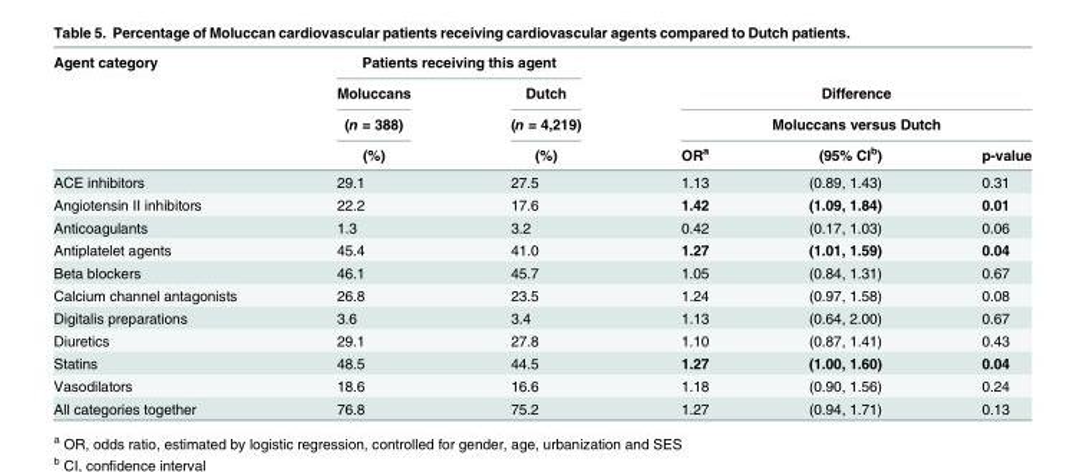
<table><thead><tr><td rowspan="4">Agent category</td><td colspan="2">Patients receiving this agent</td><td></td><td></td><td></td></tr><tr><td rowspan="3">Moluccans (n = 388) (%)</td><td rowspan="3">Dutch (n = 4,219) (%)</td><td rowspan="2" colspan="3">Difference Moluccans versus Dutch</td></tr><tr></tr><tr><td>OR<sup>a</sup></td><td>(95% CI<sup>b</sup>)</td><td>p-value</td></tr></thead><tbody><tr><td>ACE inhibitors</td><td>29.1</td><td>27.5</td><td>1.13</td><td>(0.89, 1.43)</td><td>0.31</td></tr><tr><td>Angiotensin II inhibitors</td><td>22.2</td><td>17.6</td><td>1.42</td><td>(1.09, 1.84)</td><td>0.01</td></tr><tr><td>Anticoagulants</td><td>1.3</td><td>3.2</td><td>0.42</td><td>(0.17, 1.03)</td><td>0.06</td></tr><tr><td>Antiplatelet agents</td><td>45.4</td><td>41.0</td><td>1.27</td><td>(1.01, 1.59)</td><td>0.04</td></tr><tr><td>Beta blockers</td><td>46.1</td><td>45.7</td><td>1.05</td><td>(0.84, 1.31)</td><td>0.67</td></tr><tr><td>Calcium channel antagonists</td><td>26.8</td><td>23.5</td><td>1.24</td><td>(0.97, 1.58)</td><td>0.08</td></tr><tr><td>Digitalis preparations</td><td>3.6</td><td>3.4</td><td>1.13</td><td>(0.64, 2.00)</td><td>0.67</td></tr><tr><td>Diuretics</td><td>29.1</td><td>27.8</td><td>1.10</td><td>(0.87, 1.41)</td><td>0.43</td></tr><tr><td>Statins</td><td>48.5</td><td>44.5</td><td>1.27</td><td>(1.00, 1.60)</td><td>0.04</td></tr><tr><td>Vasodilators</td><td>18.6</td><td>16.6</td><td>1.18</td><td>(0.90, 1.56)</td><td>0.24</td></tr><tr><td>All categories together</td><td>76.8</td><td>75.2</td><td>1.27</td><td>(0.94, 1.71)</td><td>0.13</td></tr></tbody></table>